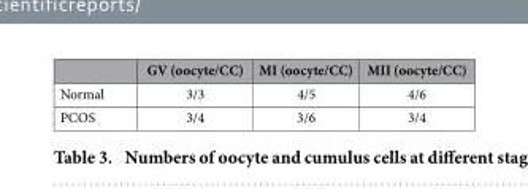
<table><thead><tr><td></td><td>GV (oocyte/CC)</td><td>MI (oocyte/CC)</td><td>MII (oocyte/CC)</td></tr></thead><tbody><tr><td>Normal</td><td>3/3</td><td>4/5</td><td>4/6</td></tr><tr><td>PCOS</td><td>3/4</td><td>3/6</td><td>3/4</td></tr></tbody></table>